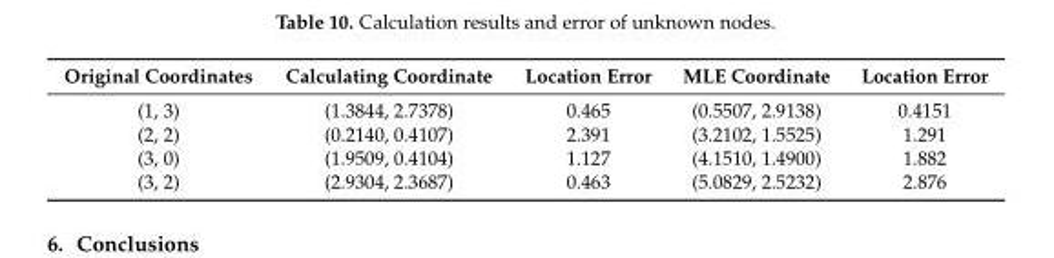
<table><thead><tr><td>Original Coordinates</td><td>Calculating Coordinate</td><td>Location Error</td><td>MLE Coordinate</td><td>Location Error</td></tr></thead><tbody><tr><td>(1, 3)</td><td>(1.3844, 2.7378)</td><td>0.465</td><td>(0.5507, 2.9138)</td><td>0.4151</td></tr><tr><td>(2, 2)</td><td>(0.2140, 0.4107)</td><td>2.391</td><td>(3.2102, 1.5525)</td><td>1.291</td></tr><tr><td>(3, 0)</td><td>(1.9509, 0.4104)</td><td>1.127</td><td>(4.1510, 1.4900)</td><td>1.882</td></tr><tr><td>(3, 2)</td><td>(2.9304, 2.3687)</td><td>0.463</td><td>(5.0829, 2.5232)</td><td>2.876</td></tr></tbody></table>